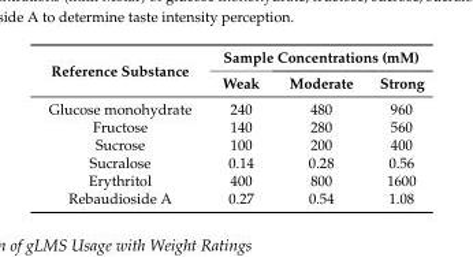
<table><thead><tr><td rowspan="2">Reference Substance</td><td colspan="3">Sample Concentrations (mM)</td></tr><tr><td>Weak</td><td>Moderate</td><td>Strong</td></tr></thead><tbody><tr><td>Glucose monohydrate</td><td>240</td><td>480</td><td>960</td></tr><tr><td>Fructose</td><td>140</td><td>280</td><td>560</td></tr><tr><td>Sucrose</td><td>100</td><td>200</td><td>400</td></tr><tr><td>Sucralose</td><td>0.14</td><td>0.28</td><td>0.56</td></tr><tr><td>Erythritol</td><td>400</td><td>800</td><td>1600</td></tr><tr><td>Rebaudioside A</td><td>0.27</td><td>0.54</td><td>1.08</td></tr></tbody></table>